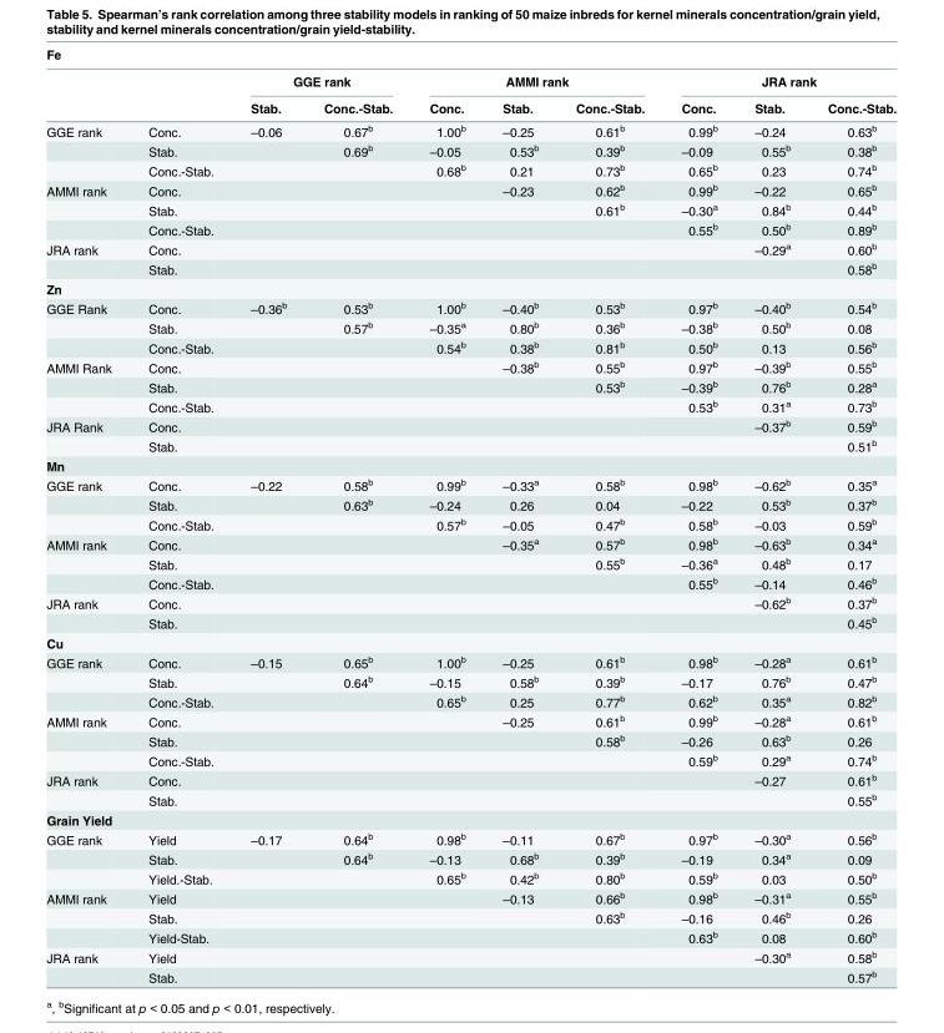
<table><thead><tr><td colspan="10">Fe</td></tr><tr><td rowspan="2"></td><td rowspan="2"></td><td colspan="2">GGE rank</td><td colspan="3">AMMI rank</td><td colspan="3">JRA rank</td></tr><tr><td>Stab.</td><td>Conc.-Stab.</td><td>Conc.</td><td>Stab.</td><td>Conc.-Stab.</td><td>Conc.</td><td>Stab.</td><td>Conc.-Stab.</td></tr></thead><tbody><tr><td rowspan="3">GGE rank</td><td>Conc.</td><td>–0.06</td><td>0.67<sup>b</sup></td><td>1.00<sup>b</sup></td><td>–0.25</td><td>0.61<sup>b</sup></td><td>0.99<sup>b</sup></td><td>–0.24</td><td>0.63<sup>b</sup></td></tr><tr><td>Stab.</td><td></td><td>0.69<sup>b</sup></td><td>–0.05</td><td>0.53<sup>b</sup></td><td>0.39<sup>b</sup></td><td>–0.09</td><td>0.55<sup>b</sup></td><td>0.38<sup>b</sup></td></tr><tr><td>Conc.-Stab.</td><td></td><td></td><td>0.68<sup>b</sup></td><td>0.21</td><td>0.73<sup>b</sup></td><td>0.65<sup>b</sup></td><td>0.23</td><td>0.74<sup>b</sup></td></tr><tr><td rowspan="3">AMMI rank</td><td>Conc.</td><td></td><td></td><td></td><td>–0.23</td><td>0.62<sup>b</sup></td><td>0.99<sup>b</sup></td><td>–0.22</td><td>0.65<sup>b</sup></td></tr><tr><td>Stab.</td><td></td><td></td><td></td><td></td><td>0.61<sup>b</sup></td><td>–0.30<sup>a</sup></td><td>0.84<sup>b</sup></td><td>0.44<sup>b</sup></td></tr><tr><td>Conc.-Stab.</td><td></td><td></td><td></td><td></td><td></td><td>0.55<sup>b</sup></td><td>0.50<sup>b</sup></td><td>0.89<sup>b</sup></td></tr><tr><td rowspan="2">JRA rank</td><td>Conc.</td><td></td><td></td><td></td><td></td><td></td><td></td><td>–0.29<sup>a</sup></td><td>0.60<sup>b</sup></td></tr><tr><td>Stab.</td><td></td><td></td><td></td><td></td><td></td><td></td><td></td><td>0.58<sup>b</sup></td></tr><tr><td colspan="10">Zn</td></tr><tr><td rowspan="3">GGE Rank</td><td>Conc.</td><td>–0.36<sup>b</sup></td><td>0.53<sup>b</sup></td><td>1.00<sup>b</sup></td><td>–0.40<sup>b</sup></td><td>0.53<sup>b</sup></td><td>0.97<sup>b</sup></td><td>–0.40<sup>b</sup></td><td>0.54<sup>b</sup></td></tr><tr><td>Stab.</td><td></td><td>0.57<sup>b</sup></td><td>–0.35<sup>a</sup></td><td>0.80<sup>b</sup></td><td>0.36<sup>b</sup></td><td>–0.38<sup>b</sup></td><td>0.50<sup>b</sup></td><td>0.08</td></tr><tr><td>Conc.-Stab.</td><td></td><td></td><td>0.54<sup>b</sup></td><td>0.38<sup>b</sup></td><td>0.81<sup>b</sup></td><td>0.50<sup>b</sup></td><td>0.13</td><td>0.56<sup>b</sup></td></tr><tr><td rowspan="3">AMMI Rank</td><td>Conc.</td><td></td><td></td><td></td><td>–0.38<sup>b</sup></td><td>0.55<sup>b</sup></td><td>0.97<sup>b</sup></td><td>–0.39<sup>b</sup></td><td>0.55<sup>b</sup></td></tr><tr><td>Stab.</td><td></td><td></td><td></td><td></td><td>0.53<sup>b</sup></td><td>–0.39<sup>b</sup></td><td>0.76<sup>b</sup></td><td>0.28<sup>a</sup></td></tr><tr><td>Conc.-Stab.</td><td></td><td></td><td></td><td></td><td></td><td>0.53<sup>b</sup></td><td>0.31<sup>a</sup></td><td>0.73<sup>b</sup></td></tr><tr><td rowspan="2">JRA Rank</td><td>Conc.</td><td></td><td></td><td></td><td></td><td></td><td></td><td>–0.37<sup>b</sup></td><td>0.59<sup>b</sup></td></tr><tr><td>Stab.</td><td></td><td></td><td></td><td></td><td></td><td></td><td></td><td>0.51<sup>b</sup></td></tr><tr><td colspan="10">Mn</td></tr><tr><td rowspan="3">GGE rank</td><td>Conc.</td><td>–0.22</td><td>0.58<sup>b</sup></td><td>0.99<sup>b</sup></td><td>–0.33<sup>a</sup></td><td>0.58<sup>b</sup></td><td>0.98<sup>b</sup></td><td>–0.62<sup>b</sup></td><td>0.35<sup>a</sup></td></tr><tr><td>Stab.</td><td></td><td>0.63<sup>b</sup></td><td>–0.24</td><td>0.26</td><td>0.04</td><td>–0.22</td><td>0.53<sup>b</sup></td><td>0.37<sup>b</sup></td></tr><tr><td>Conc.-Stab.</td><td></td><td></td><td>0.57<sup>b</sup></td><td>–0.05</td><td>0.47<sup>b</sup></td><td>0.58<sup>b</sup></td><td>–0.03</td><td>0.59<sup>b</sup></td></tr><tr><td rowspan="3">AMMI rank</td><td>Conc.</td><td></td><td></td><td></td><td>–0.35<sup>a</sup></td><td>0.57<sup>b</sup></td><td>0.98<sup>b</sup></td><td>–0.63<sup>b</sup></td><td>0.34<sup>a</sup></td></tr><tr><td>Stab.</td><td></td><td></td><td></td><td></td><td>0.55<sup>b</sup></td><td>–0.36<sup>a</sup></td><td>0.48<sup>b</sup></td><td>0.17</td></tr><tr><td>Conc.-Stab.</td><td></td><td></td><td></td><td></td><td></td><td>0.55<sup>b</sup></td><td>–0.14</td><td>0.46<sup>b</sup></td></tr><tr><td rowspan="2">JRA rank</td><td>Conc.</td><td></td><td></td><td></td><td></td><td></td><td></td><td>–0.62<sup>b</sup></td><td>0.37<sup>b</sup></td></tr><tr><td>Stab.</td><td></td><td></td><td></td><td></td><td></td><td></td><td></td><td>0.45<sup>b</sup></td></tr><tr><td colspan="10">Cu</td></tr><tr><td rowspan="3">GGE rank</td><td>Conc.</td><td>–0.15</td><td>0.65<sup>b</sup></td><td>1.00<sup>b</sup></td><td>–0.25</td><td>0.61<sup>b</sup></td><td>0.98<sup>b</sup></td><td>–0.28<sup>a</sup></td><td>0.61<sup>b</sup></td></tr><tr><td>Stab.</td><td></td><td>0.64<sup>b</sup></td><td>–0.15</td><td>0.58<sup>b</sup></td><td>0.39<sup>b</sup></td><td>–0.17</td><td>0.76<sup>b</sup></td><td>0.47<sup>b</sup></td></tr><tr><td>Conc.-Stab.</td><td></td><td></td><td>0.65<sup>b</sup></td><td>0.25</td><td>0.77<sup>b</sup></td><td>0.62<sup>b</sup></td><td>0.35<sup>a</sup></td><td>0.82<sup>b</sup></td></tr><tr><td rowspan="3">AMMI rank</td><td>Conc.</td><td></td><td></td><td></td><td>–0.25</td><td>0.61<sup>b</sup></td><td>0.99<sup>b</sup></td><td>–0.28<sup>a</sup></td><td>0.61<sup>b</sup></td></tr><tr><td>Stab.</td><td></td><td></td><td></td><td></td><td>0.58<sup>b</sup></td><td>–0.26</td><td>0.63<sup>b</sup></td><td>0.26</td></tr><tr><td>Conc.-Stab.</td><td></td><td></td><td></td><td></td><td></td><td>0.59<sup>b</sup></td><td>0.29<sup>a</sup></td><td>0.74<sup>b</sup></td></tr><tr><td rowspan="2">JRA rank</td><td>Conc.</td><td></td><td></td><td></td><td></td><td></td><td></td><td>–0.27</td><td>0.61<sup>b</sup></td></tr><tr><td>Stab.</td><td></td><td></td><td></td><td></td><td></td><td></td><td></td><td>0.55<sup>b</sup></td></tr><tr><td colspan="10">Grain Yield</td></tr><tr><td rowspan="3">GGE rank</td><td>Yield</td><td>–0.17</td><td>0.64<sup>b</sup></td><td>0.98<sup>b</sup></td><td>–0.11</td><td>0.67<sup>b</sup></td><td>0.97<sup>b</sup></td><td>–0.30<sup>a</sup></td><td>0.56<sup>b</sup></td></tr><tr><td>Stab.</td><td></td><td>0.64<sup>b</sup></td><td>–0.13</td><td>0.68<sup>b</sup></td><td>0.39<sup>b</sup></td><td>–0.19</td><td>0.34<sup>a</sup></td><td>0.09</td></tr><tr><td>Yield.-Stab.</td><td></td><td></td><td>0.65<sup>b</sup></td><td>0.42<sup>b</sup></td><td>0.80<sup>b</sup></td><td>0.59<sup>b</sup></td><td>0.03</td><td>0.50<sup>b</sup></td></tr><tr><td rowspan="3">AMMI rank</td><td>Yield</td><td></td><td></td><td></td><td>–0.13</td><td>0.66<sup>b</sup></td><td>0.98<sup>b</sup></td><td>–0.31<sup>a</sup></td><td>0.55<sup>b</sup></td></tr><tr><td>Stab.</td><td></td><td></td><td></td><td></td><td>0.63<sup>b</sup></td><td>–0.16</td><td>0.46<sup>b</sup></td><td>0.26</td></tr><tr><td>Yield-Stab.</td><td></td><td></td><td></td><td></td><td></td><td>0.63<sup>b</sup></td><td>0.08</td><td>0.60<sup>b</sup></td></tr><tr><td rowspan="2">JRA rank</td><td>Yield</td><td></td><td></td><td></td><td></td><td></td><td></td><td>–0.30<sup>a</sup></td><td>0.58<sup>b</sup></td></tr><tr><td>Stab.</td><td></td><td></td><td></td><td></td><td></td><td></td><td></td><td>0.57<sup>b</sup></td></tr></tbody></table>